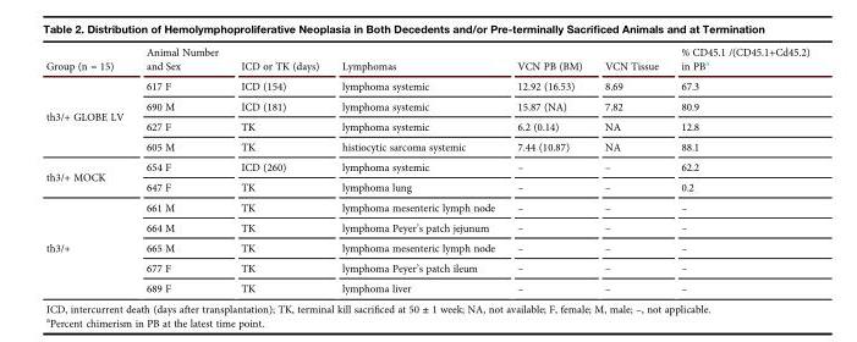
<table><thead><tr><td>Group (n = 15)</td><td>Animal Number and Sex</td><td>ICD or TK (days)</td><td>Lymphomas</td><td>VCN PB (BM)</td><td>VCN Tissue</td><td>% CD45.1 /(CD45.1+Cd45.2) in PB<sup>a</sup></td></tr></thead><tbody><tr><td rowspan="4">th3/+ GLOBE LV</td><td>617 F</td><td>ICD (154)</td><td>lymphoma systemic</td><td>12.92 (16.53)</td><td>8.69</td><td>67.3</td></tr><tr><td>690 M</td><td>ICD (181)</td><td>lymphoma systemic</td><td>15.87 (NA)</td><td>7.82</td><td>80.9</td></tr><tr><td>627 F</td><td>TK</td><td>lymphoma systemic</td><td>6.2 (0.14)</td><td>NA</td><td>12.8</td></tr><tr><td>605 M</td><td>TK</td><td>histiocytic sarcoma systemic</td><td>7.44 (10.87)</td><td>NA</td><td>88.1</td></tr><tr><td rowspan="2">th3/+ MOCK</td><td>654 F</td><td>ICD (260)</td><td>lymphoma systemic</td><td>–</td><td>–</td><td>62.2</td></tr><tr><td>647 F</td><td>TK</td><td>lymphoma lung</td><td>–</td><td>–</td><td>0.2</td></tr><tr><td rowspan="5">th3/+</td><td>661 M</td><td>TK</td><td>lymphoma mesenteric lymph node</td><td>–</td><td>–</td><td>–</td></tr><tr><td>664 M</td><td>TK</td><td>lymphoma Peyer’s patch jejunum</td><td>–</td><td>–</td><td>–</td></tr><tr><td>665 M</td><td>TK</td><td>lymphoma mesenteric lymph node</td><td>–</td><td>–</td><td>–</td></tr><tr><td>677 F</td><td>TK</td><td>lymphoma Peyer’s patch ileum</td><td>–</td><td>–</td><td>–</td></tr><tr><td>689 F</td><td>TK</td><td>lymphoma liver</td><td>–</td><td>–</td><td>–</td></tr></tbody></table>